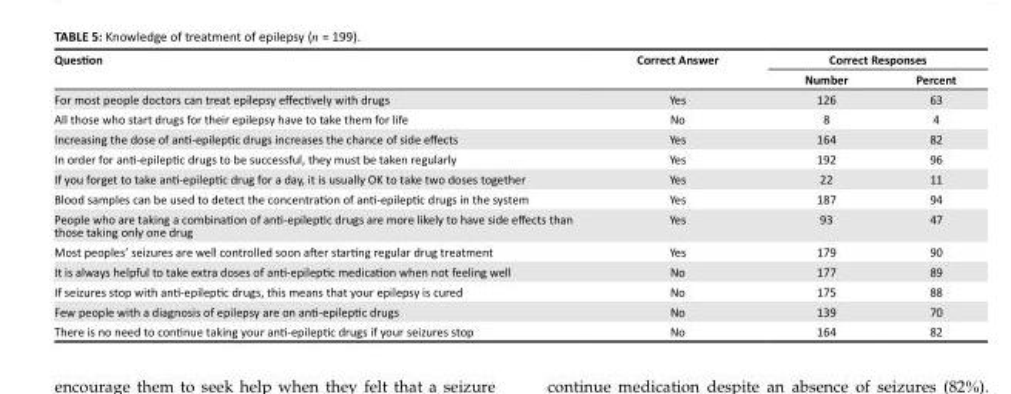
<table><thead><tr><td rowspan="2">Question</td><td rowspan="2">Correct Answer</td><td colspan="2">Correct Responses</td></tr><tr><td>Number</td><td>Percent</td></tr></thead><tbody><tr><td>For most people doctors can treat epilepsy effectively with drugs</td><td>Yes</td><td>126</td><td>63</td></tr><tr><td>All those who start drugs for their epilepsy have to take them for life</td><td>No</td><td>8</td><td>4</td></tr><tr><td>Increasing the dose of anti-epileptic drugs increases the chance of side effects</td><td>Yes</td><td>164</td><td>82</td></tr><tr><td>In order for anti-epileptic drugs to be successful, they must be taken regularly</td><td>Yes</td><td>192</td><td>96</td></tr><tr><td>If you forget to take anti-epileptic drug for a day, it is usually OK to take two doses together</td><td>Yes</td><td>22</td><td>11</td></tr><tr><td>Blood samples can be used to detect the concentration of anti-epileptic drugs in the system</td><td>Yes</td><td>187</td><td>94</td></tr><tr><td>People who are taking a combination of anti-epileptic drugs are more likely to have side effects than those taking only one drug</td><td>Yes</td><td>93</td><td>47</td></tr><tr><td>Most peoples’ seizures are well controlled soon after starting regular drug treatment</td><td>Yes</td><td>179</td><td>90</td></tr><tr><td>It is always helpful to take extra doses of anti-epileptic medication when not feeling well</td><td>No</td><td>177</td><td>89</td></tr><tr><td>If seizures stop with anti-epileptic drugs, this means that your epilepsy is cured</td><td>No</td><td>175</td><td>88</td></tr><tr><td>Few people with a diagnosis of epilepsy are on anti-epileptic drugs</td><td>No</td><td>139</td><td>70</td></tr><tr><td>There is no need to continue taking your anti-epileptic drugs if your seizures stop</td><td>No</td><td>164</td><td>82</td></tr></tbody></table>